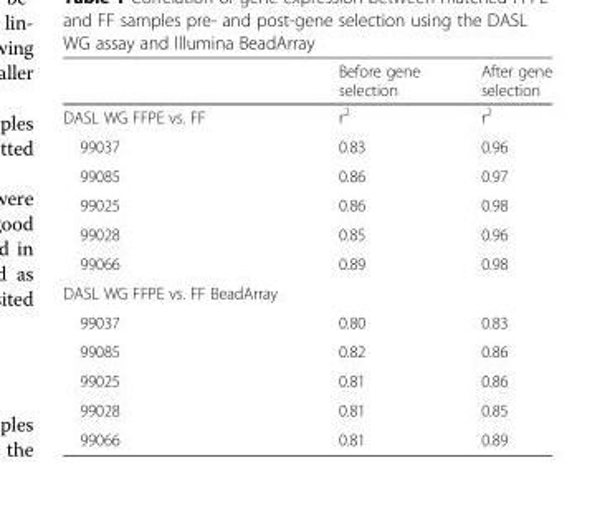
<table><thead><tr><td></td><td>Before gene selection</td><td>After gene selection</td></tr></thead><tbody><tr><td>DASL WG FFPE vs. FF</td><td>r<sup>2</sup></td><td>r<sup>2</sup></td></tr><tr><td>99037</td><td>0.83</td><td>0.96</td></tr><tr><td>99085</td><td>0.86</td><td>0.97</td></tr><tr><td>99025</td><td>0.86</td><td>0.98</td></tr><tr><td>99028</td><td>0.85</td><td>0.96</td></tr><tr><td>99066</td><td>0.89</td><td>0.98</td></tr><tr><td colspan="3">DASL WG FFPE vs. FF BeadArray</td></tr><tr><td>99037</td><td>0.80</td><td>0.83</td></tr><tr><td>99085</td><td>0.82</td><td>0.86</td></tr><tr><td>99025</td><td>0.81</td><td>0.86</td></tr><tr><td>99028</td><td>0.81</td><td>0.85</td></tr><tr><td>99066</td><td>0.81</td><td>0.89</td></tr></tbody></table>